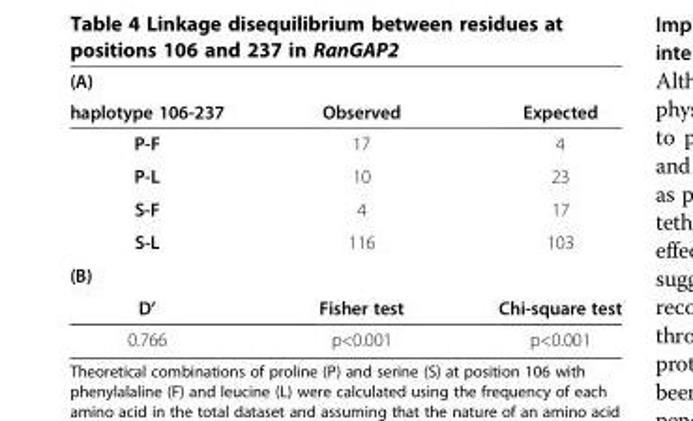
<table><thead><tr><td rowspan="2">(A) haplotype 106-237</td><td rowspan="2">Observed</td><td rowspan="2">Expected</td></tr><tr></tr></thead><tbody><tr><td>P-F</td><td>17</td><td>4</td></tr><tr><td>P-L</td><td>10</td><td>23</td></tr><tr><td>S-F</td><td>4</td><td>17</td></tr><tr><td>S-L</td><td>116</td><td>103</td></tr><tr><td colspan="3">(B)</td></tr><tr><td>D’</td><td>Fisher test</td><td>Chi-square test</td></tr><tr><td>0.766</td><td>p&lt;0.001</td><td>p&lt;0.001</td></tr></tbody></table>